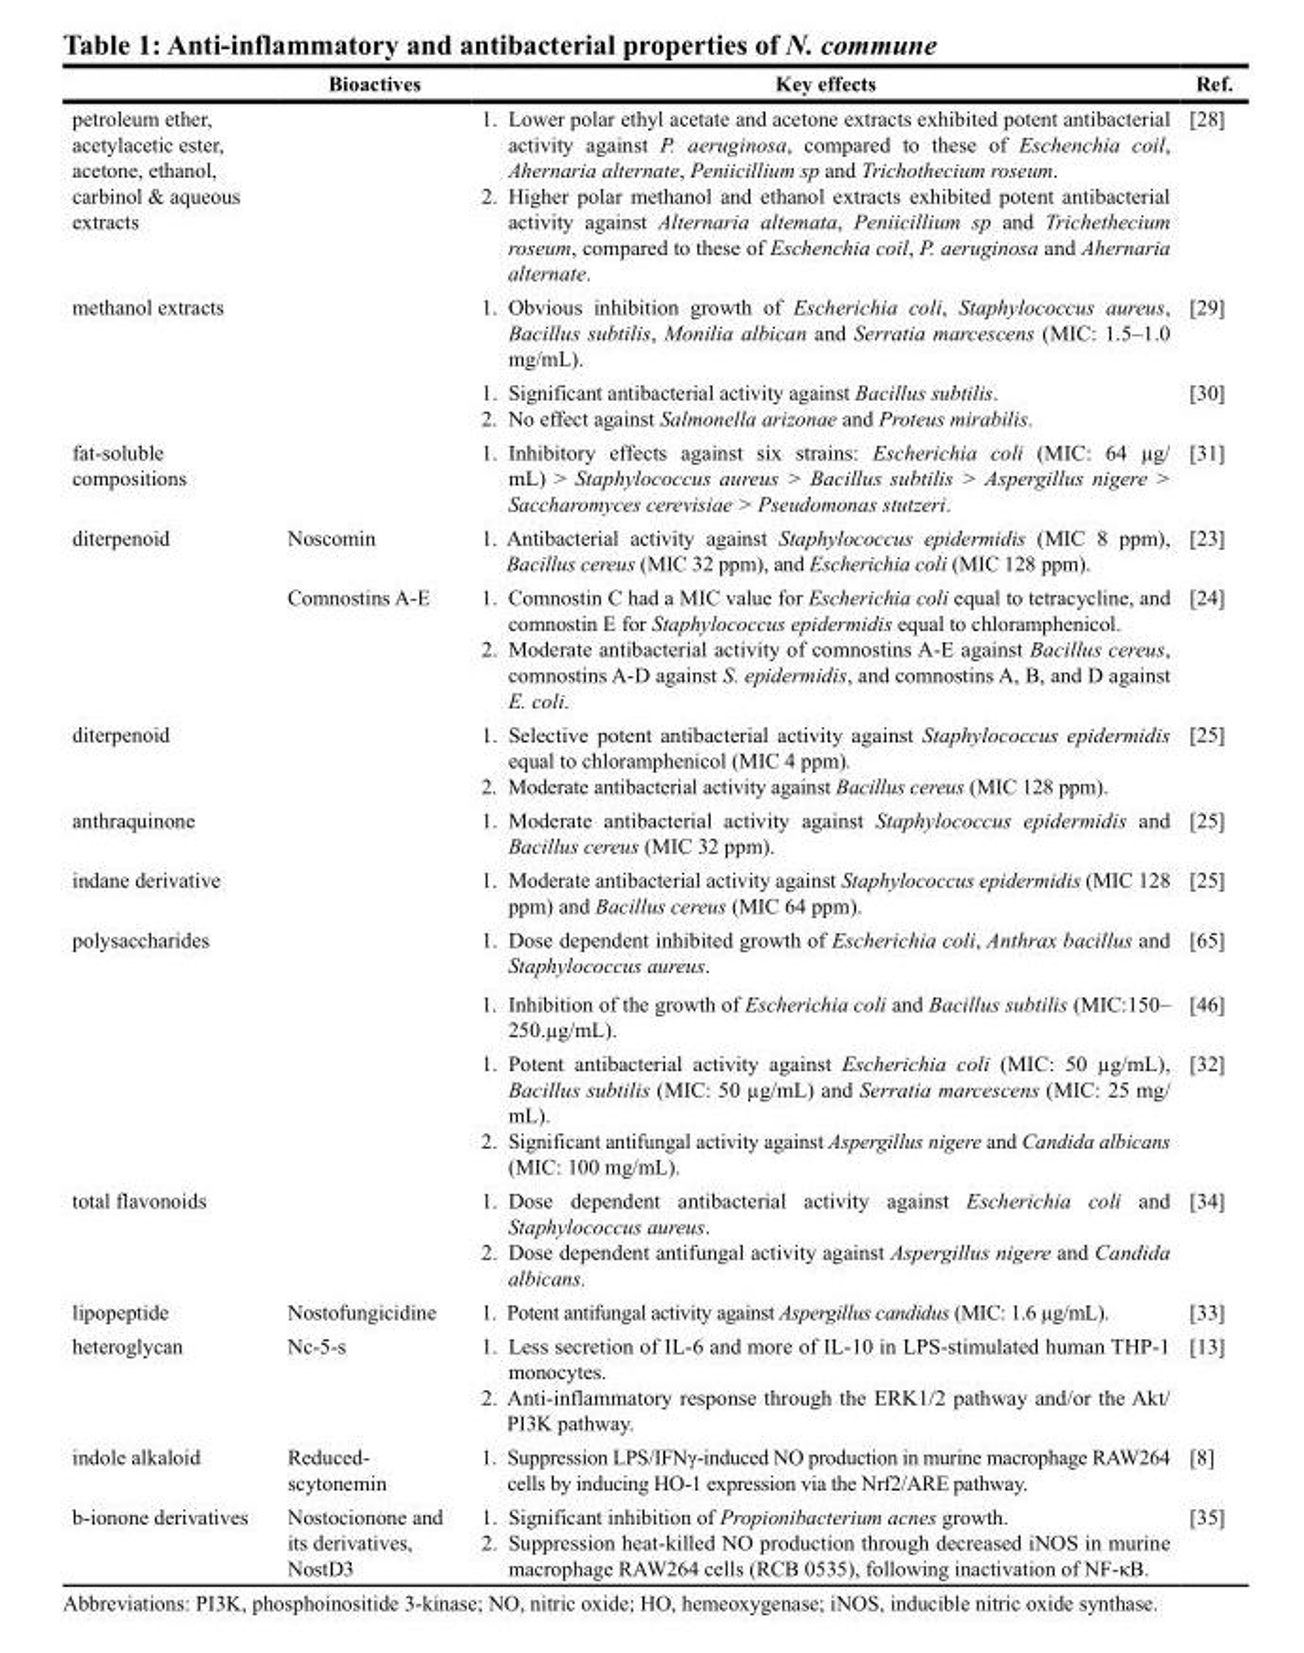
<table><thead><tr><td></td><td>Bioactives</td><td>Key effects</td><td>Ref.</td></tr></thead><tbody><tr><td>petroleum ether, acetylacetic ester, acetone, ethanol, carbinol &amp; aqueous extracts</td><td></td><td>1. Lower polar ethyl acetate and acetone extracts exhibited potent antibacterial activity against P. aeruginosa, compared to these of Eschenchia coil, Ahernaria alternate, Peniicillium sp and Trichothecium roseum. 2. Higher polar methanol and ethanol extracts exhibited potent antibacterial activity against Alternaria altemata, Peniicillium sp and Trichethecium roseum, compared to these of Eschenchia coil, P. aeruginosa and Ahernaria alternate.</td><td>[28]</td></tr><tr><td rowspan="2">methanol extracts</td><td></td><td>1. Obvious inhibition growth of Escherichia coli, Staphylococcus aureus, Bacillus subtilis, Monilia albican and Serratia marcescens (MIC: 1.5–1.0 mg/mL).</td><td>[29]</td></tr><tr><td></td><td>1. Significant antibacterial activity against Bacillus subtilis. 2. No effect against Salmonella arizonae and Proteus mirabilis.</td><td>[30]</td></tr><tr><td>fat-soluble compositions</td><td></td><td>1. Inhibitory effects against six strains: Escherichia coli (MIC: 64 µg/ mL) &gt; Staphylococcus aureus &gt; Bacillus subtilis &gt; Aspergillus nigere &gt; Saccharomyces cerevisiae &gt; Pseudomonas stutzeri.</td><td>[31]</td></tr><tr><td rowspan="2">diterpenoid</td><td>Noscomin</td><td>1. Antibacterial activity against Staphylococcus epidermidis (MIC 8 ppm), Bacillus cereus (MIC 32 ppm), and Escherichia coli (MIC 128 ppm).</td><td>[23]</td></tr><tr><td>Comnostins A-E</td><td>1. Comnostin C had a MIC value for Escherichia coli equal to tetracycline, and comnostin E for Staphylococcus epidermidis equal to chloramphenicol. 2. Moderate antibacterial activity of comnostins A-E against Bacillus cereus, comnostins A-D against S. epidermidis, and comnostins A, B, and D against E. coli.</td><td>[24]</td></tr><tr><td>diterpenoid</td><td></td><td>1. Selective potent antibacterial activity against Staphylococcus epidermidis equal to chloramphenicol (MIC 4 ppm). 2. Moderate antibacterial activity against Bacillus cereus (MIC 128 ppm).</td><td>[25]</td></tr><tr><td>anthraquinone</td><td></td><td>1. Moderate antibacterial activity against Staphylococcus epidermidis and Bacillus cereus (MIC 32 ppm).</td><td>[25]</td></tr><tr><td>indane derivative</td><td></td><td>1. Moderate antibacterial activity against Staphylococcus epidermidis (MIC 128 ppm) and Bacillus cereus (MIC 64 ppm).</td><td>[25]</td></tr><tr><td rowspan="3">polysaccharides</td><td></td><td>1. Dose dependent inhibited growth of Escherichia coli, Anthrax bacillus and Staphylococcus aureus.</td><td>[65]</td></tr><tr><td></td><td>1. Inhibition of the growth of Escherichia coli and Bacillus subtilis (MIC:150– 250.µg/mL).</td><td>[46]</td></tr><tr><td></td><td>1. Potent antibacterial activity against Escherichia coli (MIC: 50 µg/mL), Bacillus subtilis (MIC: 50 µg/mL) and Serratia marcescens (MIC: 25 mg/ mL). 2. Significant antifungal activity against Aspergillus nigere and Candida albicans (MIC: 100 mg/mL).</td><td>[32]</td></tr><tr><td>total flavonoids</td><td></td><td>1. Dose dependent antibacterial activity against Escherichia coli and Staphylococcus aureus. 2. Dose dependent antifungal activity against Aspergillus nigere and Candida albicans.</td><td>[34]</td></tr><tr><td>lipopeptide</td><td>Nostofungicidine</td><td>1. Potent antifungal activity against Aspergillus candidus (MIC: 1.6 µg/mL).</td><td>[33]</td></tr><tr><td>heteroglycan</td><td>Nc-5-s</td><td>1. Less secretion of IL-6 and more of IL-10 in LPS-stimulated human THP-1 monocytes. 2. Anti-inflammatory response through the ERK1/2 pathway and/or the Akt/ PI3K pathway.</td><td>[13]</td></tr><tr><td>indole alkaloid</td><td>Reduced- scytonemin</td><td>1. Suppression LPS/IFNγ-induced NO production in murine macrophage RAW264 cells by inducing HO-1 expression via the Nrf2/ARE pathway.</td><td>[8]</td></tr><tr><td>b-ionone derivatives</td><td>Nostocionone and its derivatives, NostD3</td><td>1. Significant inhibition of Propionibacterium acnes growth. 2. Suppression heat-killed NO production through decreased iNOS in murine macrophage RAW264 cells (RCB 0535), following inactivation of NF-κB.</td><td>[35]</td></tr></tbody></table>